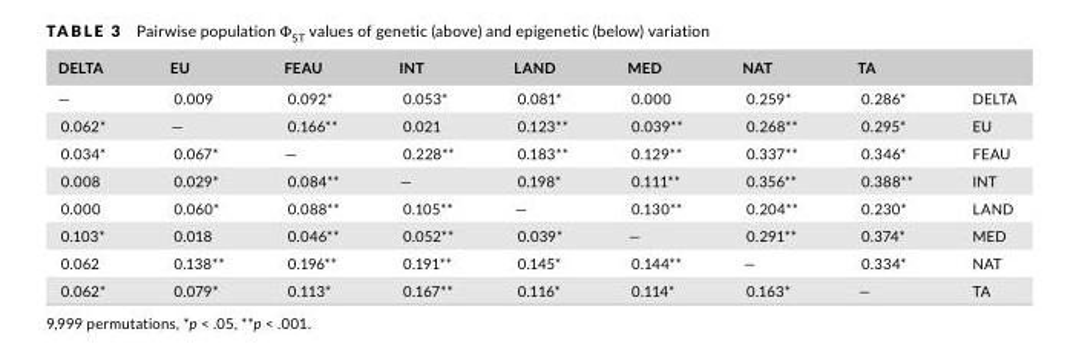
<table><thead><tr><td>DELTA</td><td>EU</td><td>FEAU</td><td>INT</td><td>LAND</td><td>MED</td><td>NAT</td><td>TA</td><td></td></tr></thead><tbody><tr><td>—</td><td>0.009</td><td>0.092*</td><td>0.053*</td><td>0.081*</td><td>0.000</td><td>0.259*</td><td>0.286*</td><td>DELTA</td></tr><tr><td>0.062*</td><td>—</td><td>0.166**</td><td>0.021</td><td>0.123**</td><td>0.039**</td><td>0.268**</td><td>0.295*</td><td>EU</td></tr><tr><td>0.034*</td><td>0.067*</td><td>—</td><td>0.228**</td><td>0.183**</td><td>0.129**</td><td>0.337**</td><td>0.346*</td><td>FEAU</td></tr><tr><td>0.008</td><td>0.029*</td><td>0.084**</td><td>—</td><td>0.198*</td><td>0.111**</td><td>0.356**</td><td>0.388**</td><td>INT</td></tr><tr><td>0.000</td><td>0.060*</td><td>0.088**</td><td>0.105**</td><td>—</td><td>0.130**</td><td>0.204**</td><td>0.230*</td><td>LAND</td></tr><tr><td>0.103*</td><td>0.018</td><td>0.046**</td><td>0.052**</td><td>0.039*</td><td>—</td><td>0.291**</td><td>0.374*</td><td>MED</td></tr><tr><td>0.062</td><td>0.138**</td><td>0.196**</td><td>0.191**</td><td>0.145*</td><td>0.144**</td><td>—</td><td>0.334*</td><td>NAT</td></tr><tr><td>0.062*</td><td>0.079*</td><td>0.113*</td><td>0.167**</td><td>0.116*</td><td>0.114*</td><td>0.163*</td><td>—</td><td>TA</td></tr></tbody></table>